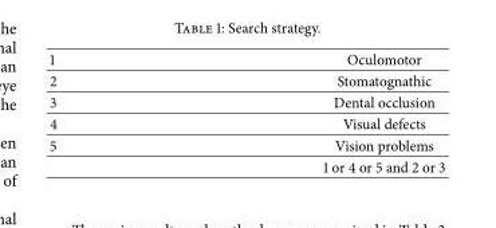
<table><tbody><tr><td>1</td><td>Oculomotor</td></tr><tr><td>2</td><td>Stomatognathic</td></tr><tr><td>3</td><td>Dental occlusion</td></tr><tr><td>4</td><td>Visual defects</td></tr><tr><td rowspan="2">5</td><td>Vision problems</td></tr><tr><td>1 or 4 or 5 and 2 or 3</td></tr></tbody></table>